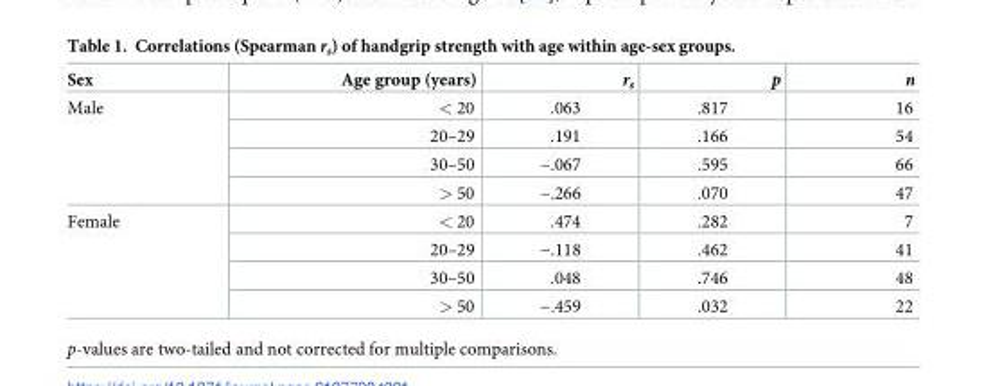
<table><thead><tr><td>Sex</td><td>Age group (years)</td><td>r<sub>s</sub></td><td>p</td><td>n</td></tr></thead><tbody><tr><td rowspan="4">Male</td><td>&lt; 20</td><td>.063</td><td>.817</td><td>16</td></tr><tr><td>20–29</td><td>.191</td><td>.166</td><td>54</td></tr><tr><td>30–50</td><td>−.067</td><td>.595</td><td>66</td></tr><tr><td>&gt; 50</td><td>−.266</td><td>.070</td><td>47</td></tr><tr><td rowspan="4">Female</td><td>&lt; 20</td><td>.474</td><td>.282</td><td>7</td></tr><tr><td>20–29</td><td>−.118</td><td>.462</td><td>41</td></tr><tr><td>30–50</td><td>.048</td><td>.746</td><td>48</td></tr><tr><td>&gt; 50</td><td>−.459</td><td>.032</td><td>22</td></tr></tbody></table>